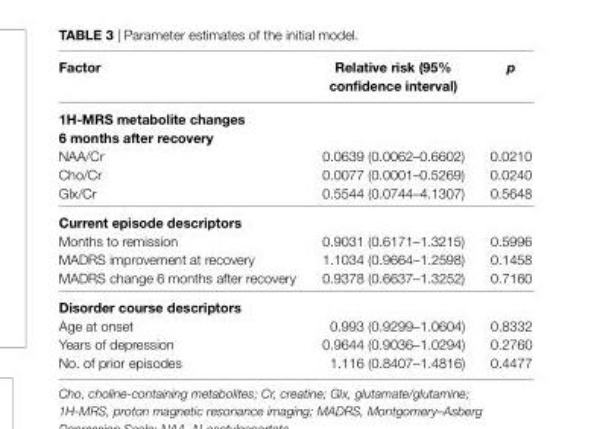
<table><thead><tr><td>Factor</td><td>relative risk (95% confidence interval)</td><td>p</td></tr></thead><tbody><tr><td colspan="3">1h-Mrs metabolite changes 6 months after recovery</td></tr><tr><td>NAA/Cr</td><td>0.0639 (0.0062–0.6602)</td><td>0.0210</td></tr><tr><td>Cho/Cr</td><td>0.0077 (0.0001–0.5269)</td><td>0.0240</td></tr><tr><td>Glx/Cr</td><td>0.5544 (0.0744–4.1307)</td><td>0.5648</td></tr><tr><td colspan="3">current episode descriptors</td></tr><tr><td>Months to remission</td><td>0.9031 (0.6171–1.3215)</td><td>0.5996</td></tr><tr><td>MADRS improvement at recovery</td><td>1.1034 (0.9664–1.2598)</td><td>0.1458</td></tr><tr><td>MADRS change 6 months after recovery</td><td>0.9378 (0.6637–1.3252)</td><td>0.7160</td></tr><tr><td colspan="3">Disorder course descriptors</td></tr><tr><td>Age at onset</td><td>0.993 (0.9299–1.0604)</td><td>0.8332</td></tr><tr><td>Years of depression</td><td>0.9644 (0.9036–1.0294)</td><td>0.2760</td></tr><tr><td>No. of prior episodes</td><td>1.116 (0.8407–1.4816)</td><td>0.4477</td></tr></tbody></table>